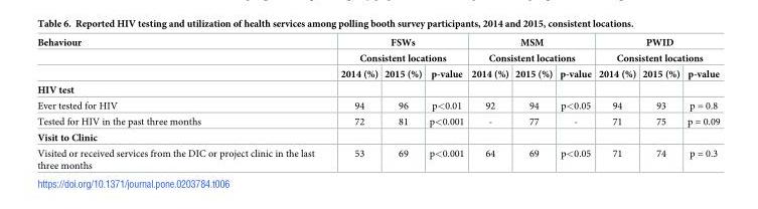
<table><thead><tr><td rowspan="3">Behaviour</td><td rowspan="2" colspan="3">FSWs Consistent locations</td><td rowspan="2" colspan="3">MSM Consistent locations</td><td rowspan="2" colspan="3">PWID Consistent locations</td></tr><tr></tr><tr><td>2014 (%)</td><td>2015 (%)</td><td>p-value</td><td>2014 (%)</td><td>2015 (%)</td><td>p-value</td><td>2014 (%)</td><td>2015 (%)</td><td>p-value</td></tr></thead><tbody><tr><td colspan="10">HIV test</td></tr><tr><td>Ever tested for HIV</td><td>94</td><td>96</td><td>p&lt;0.01</td><td>92</td><td>94</td><td>p&lt;0.05</td><td>94</td><td>93</td><td>p = 0.8</td></tr><tr><td>Tested for HIV in the past three months</td><td>72</td><td>81</td><td>p&lt;0.001</td><td>-</td><td>77</td><td>-</td><td>71</td><td>75</td><td>p = 0.09</td></tr><tr><td colspan="10">Visit to Clinic</td></tr><tr><td>Visited or received services from the DIC or project clinic in the last three months</td><td>53</td><td>69</td><td>p&lt;0.001</td><td>64</td><td>69</td><td>p&lt;0.05</td><td>71</td><td>74</td><td>p = 0.3</td></tr></tbody></table>